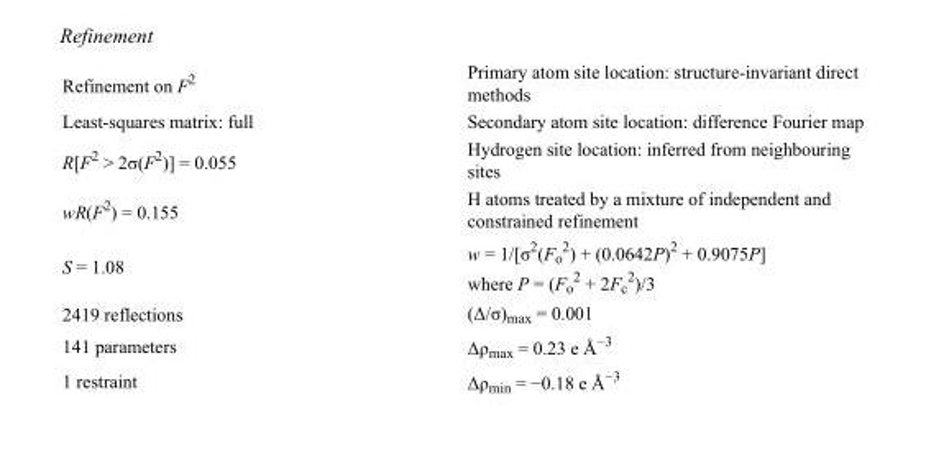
<table><tbody><tr><td>Refinement on F<sup>2</sup></td><td>Primary atom site location: structure-invariant direct methods</td></tr><tr><td>Least-squares matrix: full</td><td>Secondary atom site location: difference Fourier map</td></tr><tr><td>R[F<sup>2</sup> &gt; 2σ(F<sup>2</sup>)] = 0.055</td><td>Hydrogen site location: inferred from neighbouring sites</td></tr><tr><td>wR(F<sup>2</sup>) = 0.155</td><td>H atoms treated by a mixture of independent and constrained refinement</td></tr><tr><td>S = 1.08</td><td>w = 1/[σ<sup>2</sup>(F<sub>o</sub> <sup>2</sup>) + (0.0642P)<sup>2</sup> + 0.9075P] where P = (F<sub>o</sub> <sup>2</sup> + 2F<sub>c</sub> <sup>2</sup>)/3</td></tr><tr><td>2419 reflections</td><td>(Δ/σ)<sub>max</sub> = 0.001</td></tr><tr><td>141 parameters</td><td>Δρ<sub>max</sub> = 0.23 e Å<sup>−3</sup></td></tr><tr><td>1 restraint</td><td>Δρ<sub>min</sub> = −0.18 e Å<sup>−3</sup></td></tr></tbody></table>